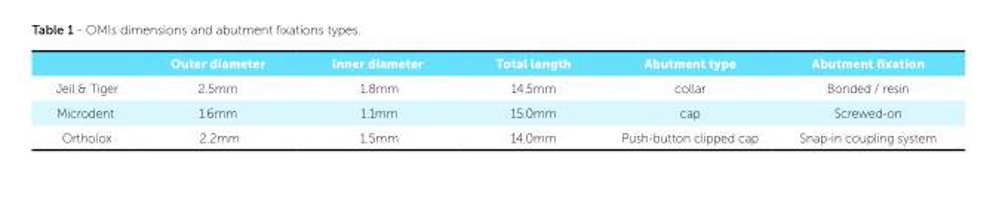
<table><thead><tr><td></td><td>Outer diameter</td><td>Inner diameter</td><td>Total length</td><td>Abutment type</td><td>Abutment fixation</td></tr></thead><tbody><tr><td>Jeil &amp; Tiger</td><td>2.5 mm</td><td>1.8 mm</td><td>14.5 mm</td><td>collar</td><td>Bonded / resin</td></tr><tr><td>Microdent</td><td>1.6 mm</td><td>1.1 mm</td><td>15.0 mm</td><td>cap</td><td>Screwed-on</td></tr><tr><td>Ortholox</td><td>2.2 mm</td><td>1.5 mm</td><td>14.0 mm</td><td>Push-button clipped cap</td><td>Snap-in coupling system</td></tr></tbody></table>